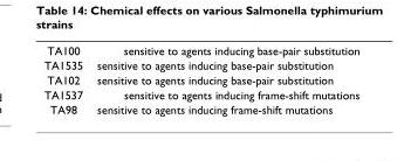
<table><tbody><tr><td>TA100</td><td>sensitive to agents inducing base-pair substitution</td></tr><tr><td>TA1535</td><td>sensitive to agents inducing base-pair substitution</td></tr><tr><td>TA102</td><td>sensitive to agents inducing base-pair substitution</td></tr><tr><td>TA1537</td><td>sensitive to agents inducing frame-shift mutations</td></tr><tr><td>TA98</td><td>sensitive to agents inducing frame-shift mutations</td></tr></tbody></table>